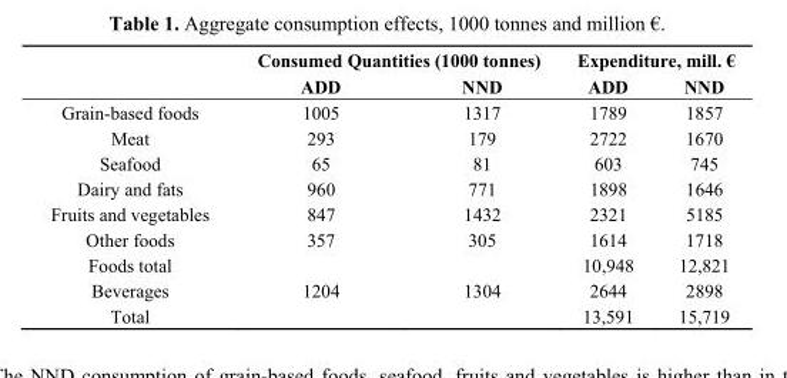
<table><thead><tr><td rowspan="2"></td><td colspan="2">Consumed Quantities (1000 tonnes)</td><td colspan="2">Expenditure, mill. €</td></tr><tr><td>ADD</td><td>NND</td><td>ADD</td><td>NND</td></tr></thead><tbody><tr><td>Grain-based foods</td><td>1005</td><td>1317</td><td>1789</td><td>1857</td></tr><tr><td>Meat</td><td>293</td><td>179</td><td>2722</td><td>1670</td></tr><tr><td>Seafood</td><td>65</td><td>81</td><td>603</td><td>745</td></tr><tr><td>Dairy and fats</td><td>960</td><td>771</td><td>1898</td><td>1646</td></tr><tr><td>Fruits and vegetables</td><td>847</td><td>1432</td><td>2321</td><td>5185</td></tr><tr><td>Other foods</td><td>357</td><td>305</td><td>1614</td><td>1718</td></tr><tr><td>Foods total</td><td></td><td></td><td>10,948</td><td>12,821</td></tr><tr><td>Beverages</td><td>1204</td><td>1304</td><td>2644</td><td>2898</td></tr><tr><td>Total</td><td></td><td></td><td>13,591</td><td>15,719</td></tr></tbody></table>